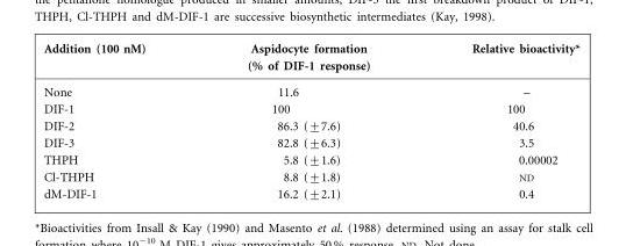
<table><thead><tr><td>Addition (100 nM)</td><td>Aspidocyte formation (% of DIF-1 response)</td><td>Relative bioactivity*</td></tr></thead><tbody><tr><td>None</td><td>11.6</td><td>–</td></tr><tr><td>DIF-1</td><td>100</td><td>100</td></tr><tr><td>DIF-2</td><td>86.3 (±7.6)</td><td>40.6</td></tr><tr><td>DIF-3</td><td>82.8 (±6.3)</td><td>3.5</td></tr><tr><td>THPH</td><td>5.8 (±1.6)</td><td>0.00002</td></tr><tr><td>Cl-THPH</td><td>8.8 (±1.8)</td><td>ND</td></tr><tr><td>dM-DIF-1</td><td>16.2 (±2.1)</td><td>0.4</td></tr></tbody></table>